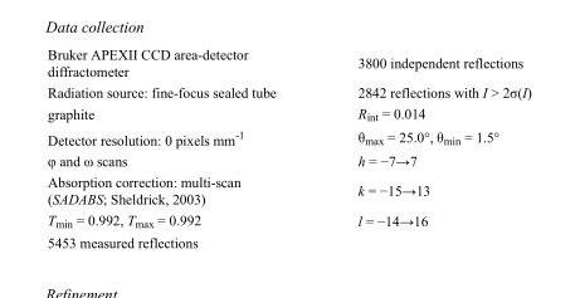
<table><tbody><tr><td>Bruker APEXII CCD area-detector diffractometer</td><td>3800 independent reflections</td></tr><tr><td>Radiation source: fine-focus sealed tube</td><td>2842 reflections with I &gt; 2σ(I)</td></tr><tr><td>graphite</td><td>R<sub>int</sub> = 0.014</td></tr><tr><td>Detector resolution: 0 pixels mm<sup>-1</sup></td><td>θ<sub>max</sub> = 25.0°, θ<sub>min</sub> = 1.5°</td></tr><tr><td>φ and ω scans</td><td>h = −7→7</td></tr><tr><td>Absorption correction: multi-scan (SADABS; Sheldrick, 2003)</td><td>k = −15→13</td></tr><tr><td>T<sub>min</sub> = 0.992, T<sub>max</sub> = 0.992</td><td>l = −14→16</td></tr><tr><td>5453 measured reflections</td><td></td></tr></tbody></table>